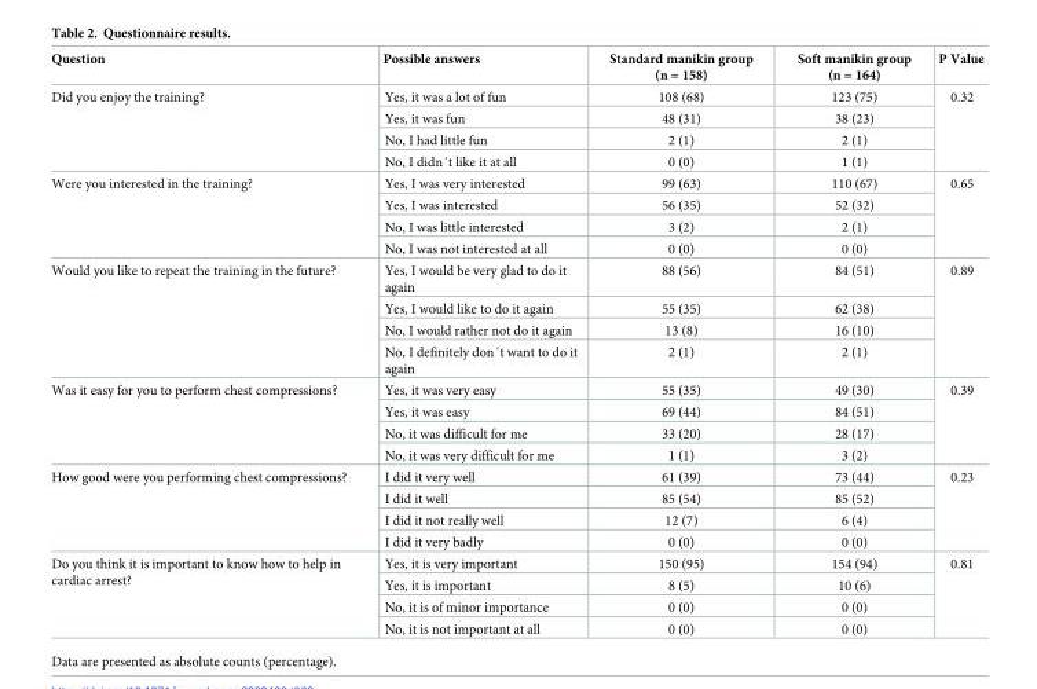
<table><thead><tr><td>Question</td><td>Possible answers</td><td>Standard manikin group (n = 158)</td><td>Soft manikin group (n = 164)</td><td>P Value</td></tr></thead><tbody><tr><td rowspan="4">Did you enjoy the training?</td><td>Yes, it was a lot of fun</td><td>108 (68)</td><td>123 (75)</td><td rowspan="4">0.32</td></tr><tr><td>Yes, it was fun</td><td>48 (31)</td><td>38 (23)</td></tr><tr><td>No, I had little fun</td><td>2 (1)</td><td>2 (1)</td></tr><tr><td>No, I didn´t like it at all</td><td>0 (0)</td><td>1 (1)</td></tr><tr><td rowspan="4">Were you interested in the training?</td><td>Yes, I was very interested</td><td>99 (63)</td><td>110 (67)</td><td rowspan="4">0.65</td></tr><tr><td>Yes, I was interested</td><td>56 (35)</td><td>52 (32)</td></tr><tr><td>No, I was little interested</td><td>3 (2)</td><td>2 (1)</td></tr><tr><td>No, I was not interested at all</td><td>0 (0)</td><td>0 (0)</td></tr><tr><td rowspan="4">Would you like to repeat the training in the future?</td><td>Yes, I would be very glad to do it again</td><td>88 (56)</td><td>84 (51)</td><td rowspan="4">0.89</td></tr><tr><td>Yes, I would like to do it again</td><td>55 (35)</td><td>62 (38)</td></tr><tr><td>No, I would rather not do it again</td><td>13 (8)</td><td>16 (10)</td></tr><tr><td>No, I definitely don´t want to do it again</td><td>2 (1)</td><td>2 (1)</td></tr><tr><td rowspan="4">Was it easy for you to perform chest compressions?</td><td>Yes, it was very easy</td><td>55 (35)</td><td>49 (30)</td><td rowspan="4">0.39</td></tr><tr><td>Yes, it was easy</td><td>69 (44)</td><td>84 (51)</td></tr><tr><td>No, it was difficult for me</td><td>33 (20)</td><td>28 (17)</td></tr><tr><td>No, it was very difficult for me</td><td>1 (1)</td><td>3 (2)</td></tr><tr><td rowspan="4">How good were you performing chest compressions?</td><td>I did it very well</td><td>61 (39)</td><td>73 (44)</td><td rowspan="4">0.23</td></tr><tr><td>I did it well</td><td>85 (54)</td><td>85 (52)</td></tr><tr><td>I did it not really well</td><td>12 (7)</td><td>6 (4)</td></tr><tr><td>I did it very badly</td><td>0 (0)</td><td>0 (0)</td></tr><tr><td rowspan="4">Do you think it is important to know how to help in cardiac arrest?</td><td>Yes, it is very important</td><td>150 (95)</td><td>154 (94)</td><td rowspan="4">0.81</td></tr><tr><td>Yes, it is important</td><td>8 (5)</td><td>10 (6)</td></tr><tr><td>No, it is of minor importance</td><td>0 (0)</td><td>0 (0)</td></tr><tr><td>No, it is not important at all</td><td>0 (0)</td><td>0 (0)</td></tr></tbody></table>